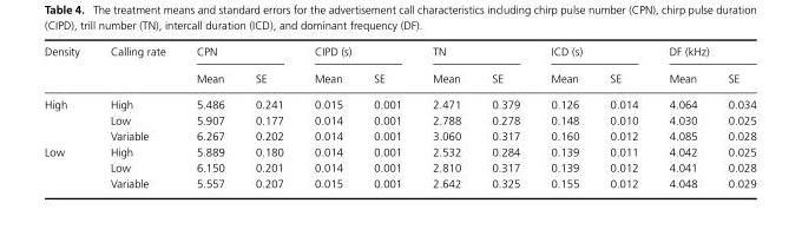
<table><thead><tr><td rowspan="2">Density</td><td rowspan="2">Calling rate</td><td colspan="2">CPN</td><td colspan="2">CIPD (s)</td><td colspan="2">TN</td><td colspan="2">ICD (s)</td><td colspan="2">DF (kHz)</td></tr><tr><td>Mean</td><td>SE</td><td>Mean</td><td>SE</td><td>Mean</td><td>SE</td><td>Mean</td><td>SE</td><td>Mean</td><td>SE</td></tr></thead><tbody><tr><td rowspan="3">High</td><td>High</td><td>5.486</td><td>0.241</td><td>0.015</td><td>0.001</td><td>2.471</td><td>0.379</td><td>0.126</td><td>0.014</td><td>4.064</td><td>0.034</td></tr><tr><td>Low</td><td>5.907</td><td>0.177</td><td>0.014</td><td>0.001</td><td>2.788</td><td>0.278</td><td>0.148</td><td>0.010</td><td>4.030</td><td>0.025</td></tr><tr><td>Variable</td><td>6.267</td><td>0.202</td><td>0.014</td><td>0.001</td><td>3.060</td><td>0.317</td><td>0.160</td><td>0.012</td><td>4.085</td><td>0.028</td></tr><tr><td rowspan="3">Low</td><td>High</td><td>5.889</td><td>0.180</td><td>0.014</td><td>0.001</td><td>2.532</td><td>0.284</td><td>0.139</td><td>0.011</td><td>4.042</td><td>0.025</td></tr><tr><td>Low</td><td>6.150</td><td>0.201</td><td>0.014</td><td>0.001</td><td>2.810</td><td>0.317</td><td>0.139</td><td>0.012</td><td>4.041</td><td>0.028</td></tr><tr><td>Variable</td><td>5.557</td><td>0.207</td><td>0.015</td><td>0.001</td><td>2.642</td><td>0.325</td><td>0.155</td><td>0.012</td><td>4.048</td><td>0.029</td></tr></tbody></table>